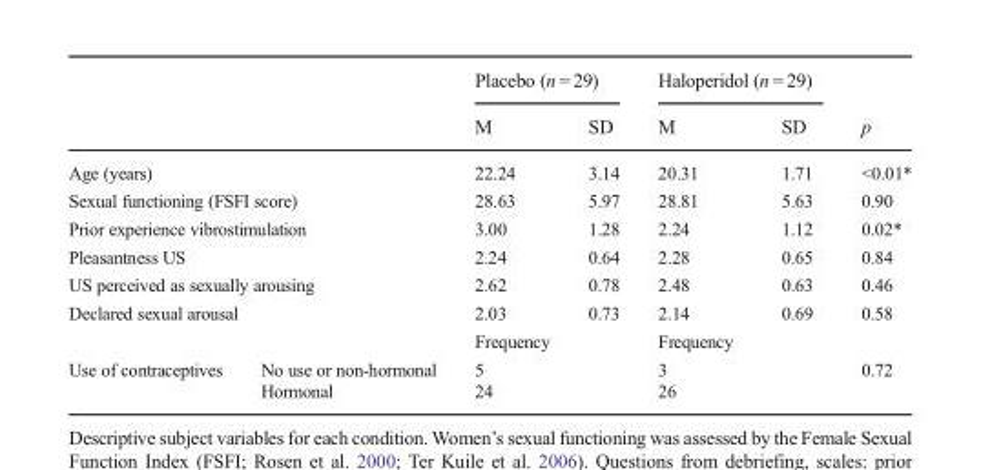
<table><thead><tr><td rowspan="2"></td><td rowspan="2"></td><td colspan="2">Placebo (n = 29)</td><td colspan="2">Haloperidol (n = 29)</td><td rowspan="2">p</td></tr><tr><td>M</td><td>SD</td><td>M</td><td>SD</td></tr></thead><tbody><tr><td colspan="2">Age (years)</td><td>22.24</td><td>3.14</td><td>20.31</td><td>1.71</td><td>&lt;0.01*</td></tr><tr><td colspan="2">Sexual functioning (FSFI score)</td><td>28.63</td><td>5.97</td><td>28.81</td><td>5.63</td><td>0.90</td></tr><tr><td colspan="2">Prior experience vibrostimulation</td><td>3.00</td><td>1.28</td><td>2.24</td><td>1.12</td><td>0.02*</td></tr><tr><td colspan="2">Pleasantness US</td><td>2.24</td><td>0.64</td><td>2.28</td><td>0.65</td><td>0.84</td></tr><tr><td colspan="2">US perceived as sexually arousing</td><td>2.62</td><td>0.78</td><td>2.48</td><td>0.63</td><td>0.46</td></tr><tr><td rowspan="2" colspan="2">Declared sexual arousal</td><td>2.03</td><td>0.73</td><td>2.14</td><td>0.69</td><td>0.58</td></tr><tr><td>Frequency</td><td></td><td>Frequency</td><td></td><td></td></tr><tr><td rowspan="2">Use of contraceptives</td><td>No use or non-hormonal</td><td>5</td><td></td><td>3</td><td></td><td rowspan="2">0.72</td></tr><tr><td>Hormonal</td><td>24</td><td></td><td>26</td><td></td></tr></tbody></table>